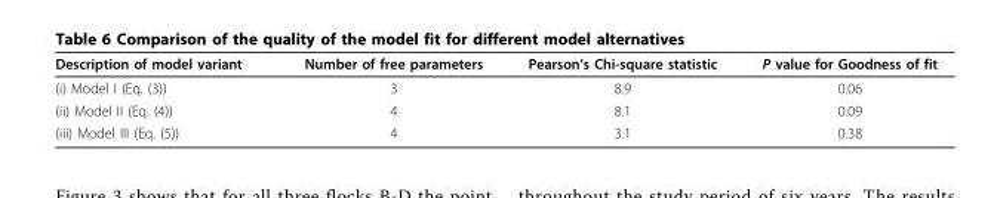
<table><thead><tr><td>Description of model variant</td><td>Number of free parameters</td><td>Pearson’s Chi-square statistic</td><td>P value for Goodness of fit</td></tr></thead><tbody><tr><td>(i) Model I (Eq. (3))</td><td>3</td><td>8.9</td><td>0.06</td></tr><tr><td>(ii) Model II (Eq. (4))</td><td>4</td><td>8.1</td><td>0.09</td></tr><tr><td>(iii) Model III (Eq. (5))</td><td>4</td><td>3.1</td><td>0.38</td></tr></tbody></table>